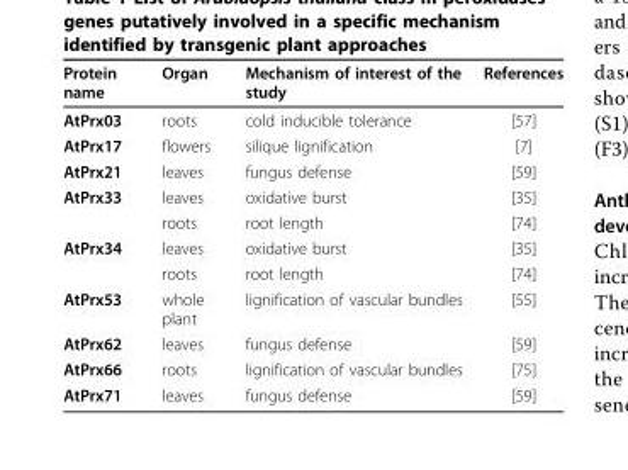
<table><thead><tr><td>Protein name</td><td>Organ</td><td>Mechanism of interest of the study</td><td>References</td></tr></thead><tbody><tr><td>AtPrx03</td><td>roots</td><td>cold inducible tolerance</td><td>[57]</td></tr><tr><td>AtPrx17</td><td>flowers</td><td>silique lignification</td><td>[7]</td></tr><tr><td>AtPrx21</td><td>leaves</td><td>fungus defense</td><td>[59]</td></tr><tr><td rowspan="2">AtPrx33</td><td>leaves</td><td>oxidative burst</td><td>[35]</td></tr><tr><td>roots</td><td>root length</td><td>[74]</td></tr><tr><td rowspan="2">AtPrx34</td><td>leaves</td><td>oxidative burst</td><td>[35]</td></tr><tr><td>roots</td><td>root length</td><td>[74]</td></tr><tr><td>AtPrx53</td><td>whole plant</td><td>lignification of vascular bundles</td><td>[55]</td></tr><tr><td>AtPrx62</td><td>leaves</td><td>fungus defense</td><td>[59]</td></tr><tr><td>AtPrx66</td><td>roots</td><td>lignification of vascular bundles</td><td>[75]</td></tr><tr><td>AtPrx71</td><td>leaves</td><td>fungus defense</td><td>[59]</td></tr></tbody></table>